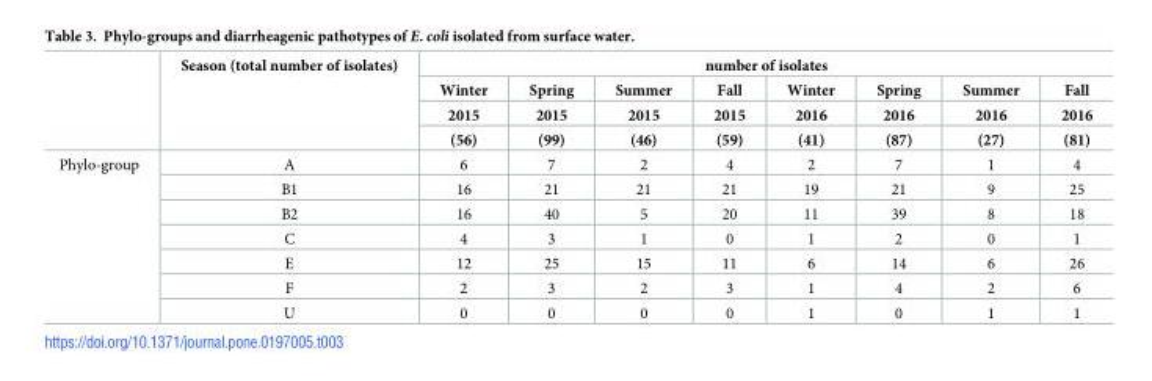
<table><thead><tr><td rowspan="4"></td><td rowspan="4">Season (total number of isolates)</td><td colspan="8">number of isolates</td></tr><tr><td rowspan="3">Winter 2015 (56)</td><td rowspan="3">Spring 2015 (99)</td><td rowspan="3">Summer 2015 (46)</td><td rowspan="3">Fall 2015 (59)</td><td rowspan="3">Winter 2016 (41)</td><td rowspan="3">Spring 2016 (87)</td><td rowspan="3">Summer 2016 (27)</td><td rowspan="3">Fall 2016 (81)</td></tr><tr></tr><tr></tr></thead><tbody><tr><td rowspan="7">Phylo-group</td><td>A</td><td>6</td><td>7</td><td>2</td><td>4</td><td>2</td><td>7</td><td>1</td><td>4</td></tr><tr><td>B1</td><td>16</td><td>21</td><td>21</td><td>21</td><td>19</td><td>21</td><td>9</td><td>25</td></tr><tr><td>B2</td><td>16</td><td>40</td><td>5</td><td>20</td><td>11</td><td>39</td><td>8</td><td>18</td></tr><tr><td>C</td><td>4</td><td>3</td><td>1</td><td>0</td><td>1</td><td>2</td><td>0</td><td>1</td></tr><tr><td>E</td><td>12</td><td>25</td><td>15</td><td>11</td><td>6</td><td>14</td><td>6</td><td>26</td></tr><tr><td>F</td><td>2</td><td>3</td><td>2</td><td>3</td><td>1</td><td>4</td><td>2</td><td>6</td></tr><tr><td>U</td><td>0</td><td>0</td><td>0</td><td>0</td><td>1</td><td>0</td><td>1</td><td>1</td></tr></tbody></table>